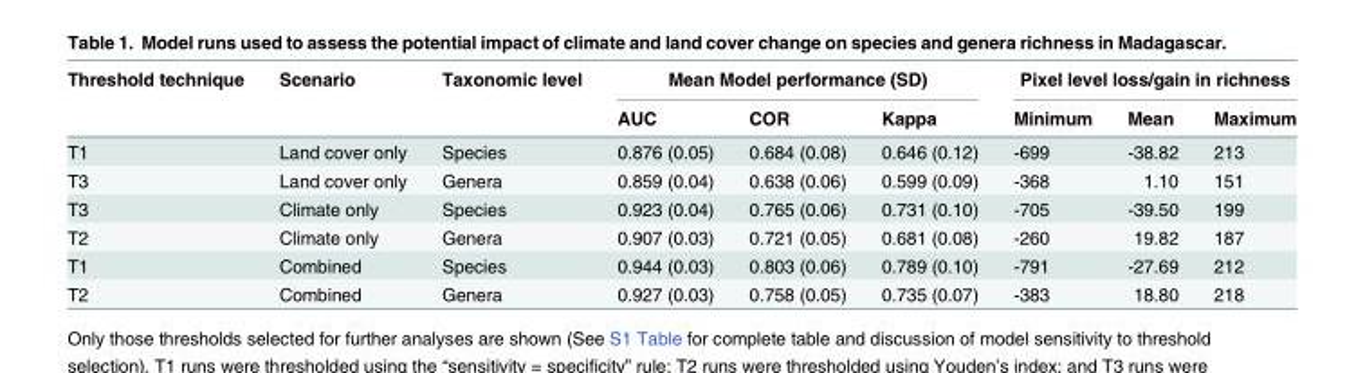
<table><thead><tr><td rowspan="2">Threshold technique</td><td rowspan="2">Scenario</td><td rowspan="2">Taxonomic level</td><td colspan="3">Mean Model performance (SD)</td><td colspan="3">Pixel level loss/gain in richness</td></tr><tr><td>AUC</td><td>COR</td><td>Kappa</td><td>Minimum</td><td>Mean</td><td>Maximum</td></tr></thead><tbody><tr><td>T1</td><td>Land cover only</td><td>Species</td><td>0.876 (0.05)</td><td>0.684 (0.08)</td><td>0.646 (0.12)</td><td>-699</td><td>-38.82</td><td>213</td></tr><tr><td>T3</td><td>Land cover only</td><td>Genera</td><td>0.859 (0.04)</td><td>0.638 (0.06)</td><td>0.599 (0.09)</td><td>-368</td><td>1.10</td><td>151</td></tr><tr><td>T3</td><td>Climate only</td><td>Species</td><td>0.923 (0.04)</td><td>0.765 (0.06)</td><td>0.731 (0.10)</td><td>-705</td><td>-39.50</td><td>199</td></tr><tr><td>T2</td><td>Climate only</td><td>Genera</td><td>0.907 (0.03)</td><td>0.721 (0.05)</td><td>0.681 (0.08)</td><td>-260</td><td>19.82</td><td>187</td></tr><tr><td>T1</td><td>Combined</td><td>Species</td><td>0.944 (0.03)</td><td>0.803 (0.06)</td><td>0.789 (0.10)</td><td>-791</td><td>-27.69</td><td>212</td></tr><tr><td>T2</td><td>Combined</td><td>Genera</td><td>0.927 (0.03)</td><td>0.758 (0.05)</td><td>0.735 (0.07)</td><td>-383</td><td>18.80</td><td>218</td></tr></tbody></table>